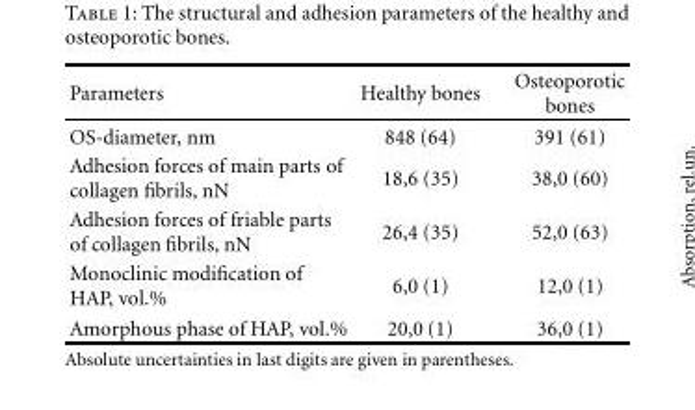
<table><thead><tr><td>Parameters</td><td>Healthy bones</td><td>Osteoporotic bones</td></tr></thead><tbody><tr><td>OS-diameter, nm</td><td>848 (64)</td><td>391 (61)</td></tr><tr><td>Adhesion forces of main parts of collagen fibrils, nN</td><td>18,6 (35)</td><td>38,0 (60)</td></tr><tr><td>Adhesion forces of friable parts of collagen fibrils, nN</td><td>26,4 (35)</td><td>52,0 (63)</td></tr><tr><td>Monoclinic modification of HAP, vol.%</td><td>6,0 (1)</td><td>12,0 (1)</td></tr><tr><td>Amorphous phase of HAP, vol.%</td><td>20,0 (1)</td><td>36,0 (1)</td></tr></tbody></table>